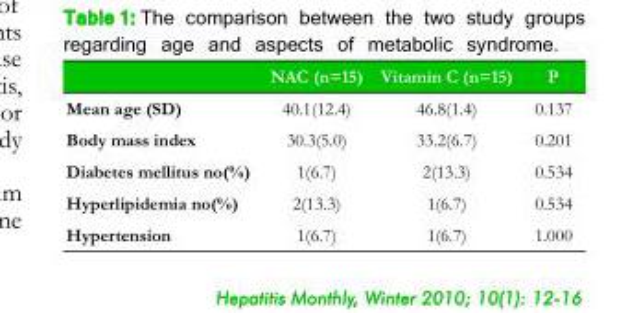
<table><thead><tr><td></td><td>NAC (n=15)</td><td>Vitamin C (n=15)</td><td>P</td></tr></thead><tbody><tr><td>Mean age (SD)</td><td>40.1(12.4)</td><td>46.8(1.4)</td><td>0.137</td></tr><tr><td>Body mass index</td><td>30.3(5.0)</td><td>33.2(6.7)</td><td>0.201</td></tr><tr><td>Diabetes mellitus no(%)</td><td>1(6.7)</td><td>2(13.3)</td><td>0.534</td></tr><tr><td>Hyperlipidemia no(%)</td><td>2(13.3)</td><td>1(6.7)</td><td>0.534</td></tr><tr><td>Hypertension</td><td>1(6.7)</td><td>1(6.7)</td><td>1.000</td></tr></tbody></table>